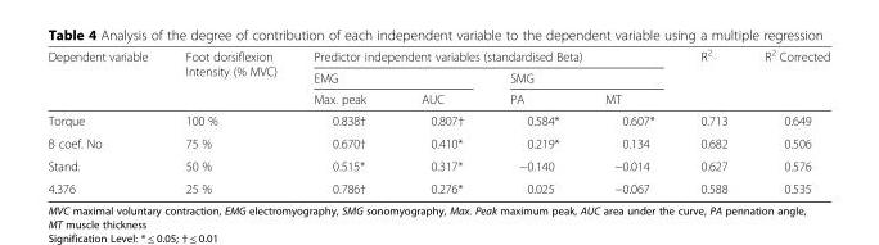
<table><thead><tr><td rowspan="3">Dependent variable</td><td rowspan="3">Foot dorsiflexion Intensity (% MVC)</td><td colspan="4">Predictor independent variables (standardised Beta)</td><td rowspan="3">R<sup>2</sup></td><td rowspan="3">R<sup>2</sup> Corrected</td></tr><tr><td colspan="2">EMG</td><td colspan="2">SMG</td></tr><tr><td>Max. peak</td><td>AUC</td><td>PA</td><td>MT</td></tr></thead><tbody><tr><td>Torque</td><td>100 %</td><td>0.838†</td><td>0.807†</td><td>0.584*</td><td>0.607*</td><td>0.713</td><td>0.649</td></tr><tr><td>Β coef. No</td><td>75 %</td><td>0.670†</td><td>0.410*</td><td>0.219*</td><td>0.134</td><td>0.682</td><td>0.506</td></tr><tr><td>Stand.</td><td>50 %</td><td>0.515*</td><td>0.317*</td><td>−0.140</td><td>−0.014</td><td>0.627</td><td>0.576</td></tr><tr><td>4.376</td><td>25 %</td><td>0.786†</td><td>0.276*</td><td>0.025</td><td>−0.067</td><td>0.588</td><td>0.535</td></tr></tbody></table>